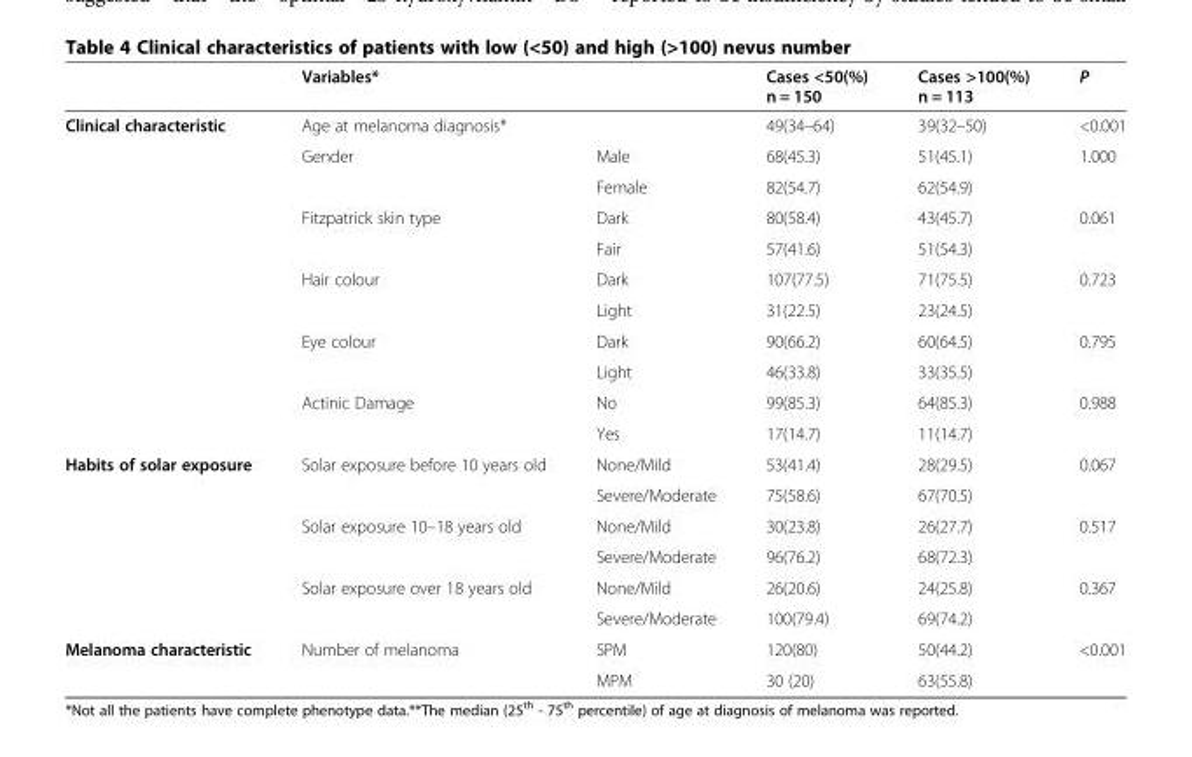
<table><thead><tr><td></td><td>Variables*</td><td></td><td>Cases &lt;50(%) n = 150</td><td>Cases &gt;100(%) n = 113</td><td>P</td></tr></thead><tbody><tr><td rowspan="11">Clinical characteristic</td><td>Age at melanoma diagnosis*</td><td></td><td>49(34–64)</td><td>39(32–50)</td><td>&lt;0.001</td></tr><tr><td>Gender</td><td>Male</td><td>68(45.3)</td><td>51(45.1)</td><td>1.000</td></tr><tr><td></td><td>Female</td><td>82(54.7)</td><td>62(54.9)</td><td></td></tr><tr><td>Fitzpatrick skin type</td><td>Dark</td><td>80(58.4)</td><td>43(45.7)</td><td>0.061</td></tr><tr><td></td><td>Fair</td><td>57(41.6)</td><td>51(54.3)</td><td></td></tr><tr><td>Hair colour</td><td>Dark</td><td>107(77.5)</td><td>71(75.5)</td><td>0.723</td></tr><tr><td></td><td>Light</td><td>31(22.5)</td><td>23(24.5)</td><td></td></tr><tr><td>Eye colour</td><td>Dark</td><td>90(66.2)</td><td>60(64.5)</td><td>0.795</td></tr><tr><td></td><td>Light</td><td>46(33.8)</td><td>33(35.5)</td><td></td></tr><tr><td>Actinic Damage</td><td>No</td><td>99(85.3)</td><td>64(85.3)</td><td>0.988</td></tr><tr><td></td><td>Yes</td><td>17(14.7)</td><td>11(14.7)</td><td></td></tr><tr><td rowspan="6">Habits of solar exposure</td><td>Solar exposure before 10 years old</td><td>None/Mild</td><td>53(41.4)</td><td>28(29.5)</td><td>0.067</td></tr><tr><td></td><td>Severe/Moderate</td><td>75(58.6)</td><td>67(70.5)</td><td></td></tr><tr><td>Solar exposure 10–18 years old</td><td>None/Mild</td><td>30(23.8)</td><td>26(27.7)</td><td>0.517</td></tr><tr><td></td><td>Severe/Moderate</td><td>96(76.2)</td><td>68(72.3)</td><td></td></tr><tr><td>Solar exposure over 18 years old</td><td>None/Mild</td><td>26(20.6)</td><td>24(25.8)</td><td>0.367</td></tr><tr><td></td><td>Severe/Moderate</td><td>100(79.4)</td><td>69(74.2)</td><td></td></tr><tr><td rowspan="2">Melanoma characteristic</td><td>Number of melanoma</td><td>SPM</td><td>120(80)</td><td>50(44.2)</td><td>&lt;0.001</td></tr><tr><td></td><td>MPM</td><td>30 (20)</td><td>63(55.8)</td><td></td></tr></tbody></table>